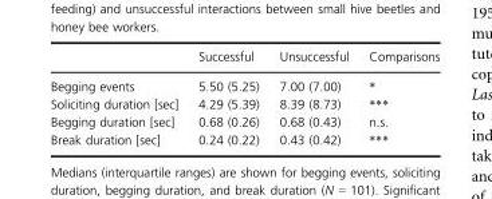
<table><thead><tr><td></td><td>Successful</td><td>Unsuccessful</td><td>Comparisons</td></tr></thead><tbody><tr><td>Begging events</td><td>5.50 (5.25)</td><td>7.00 (7.00)</td><td>*</td></tr><tr><td>Soliciting duration [sec]</td><td>4.29 (5.39)</td><td>8.39 (8.73)</td><td>***</td></tr><tr><td>Begging duration [sec]</td><td>0.68 (0.26)</td><td>0.68 (0.43)</td><td>n.s.</td></tr><tr><td>Break duration [sec]</td><td>0.24 (0.22)</td><td>0.43 (0.42)</td><td>***</td></tr></tbody></table>